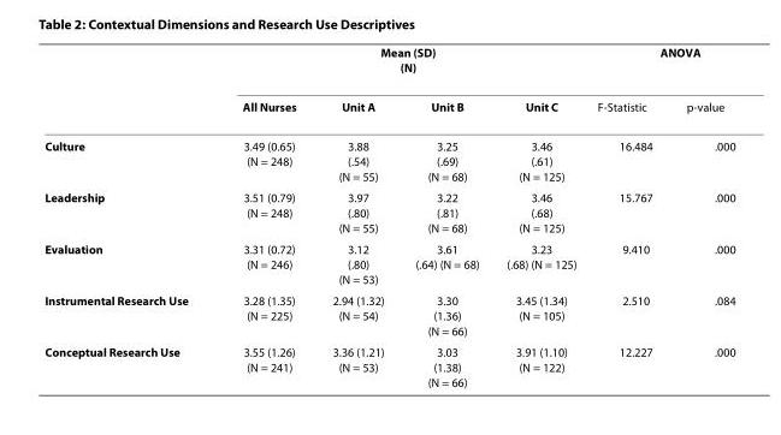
<table><thead><tr><td rowspan="2"></td><td colspan="4">Mean (SD) (N)</td><td colspan="2">ANOVA</td></tr><tr><td>All Nurses</td><td>Unit A</td><td>Unit B</td><td>Unit C</td><td>F-Statistic</td><td>p-value</td></tr></thead><tbody><tr><td>Culture</td><td>3.49 (0.65) (N = 248)</td><td>3.88 (.54) (N = 55)</td><td>3.25 (.69) (N = 68)</td><td>3.46 (.61) (N = 125)</td><td>16.484</td><td>.000</td></tr><tr><td>Leadership</td><td>3.51 (0.79) (N = 248)</td><td>3.97 (.80) (N = 55)</td><td>3.22 (.81) (N = 68)</td><td>3.46 (.68) (N = 125)</td><td>15.767</td><td>.000</td></tr><tr><td>Evaluation</td><td>3.31 (0.72) (N = 246)</td><td>3.12 (.80) (N = 53)</td><td>3.61 (.64) (N = 68)</td><td>3.23 (.68) (N = 125)</td><td>9.410</td><td>.000</td></tr><tr><td>Instrumental Research Use</td><td>3.28 (1.35) (N = 225)</td><td>2.94 (1.32) (N = 54)</td><td>3.30 (1.36) (N = 66)</td><td>3.45 (1.34) (N = 105)</td><td>2.510</td><td>.084</td></tr><tr><td>Conceptual Research Use</td><td>3.55 (1.26) (N = 241)</td><td>3.36 (1.21) (N = 53)</td><td>3.03 (1.38) (N = 66)</td><td>3.91 (1.10) (N = 122)</td><td>12.227</td><td>.000</td></tr></tbody></table>